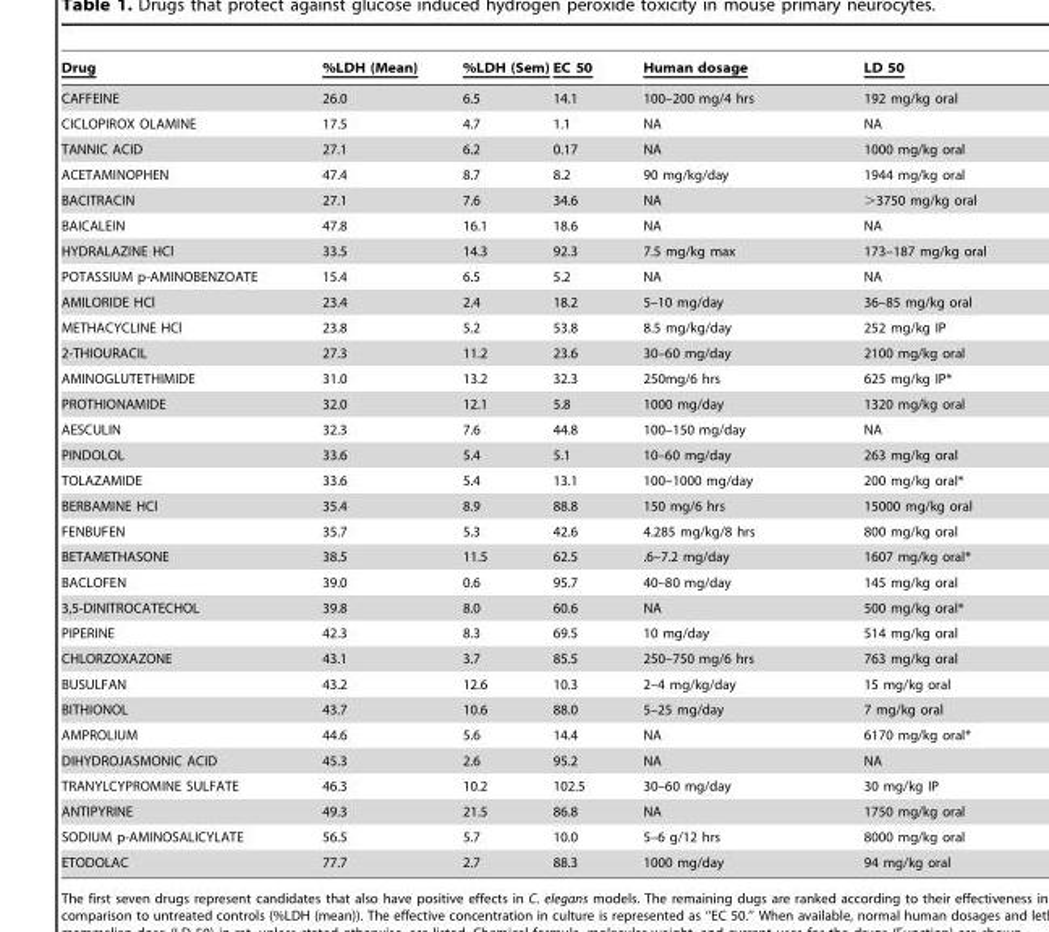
<table><thead><tr><td>Drug</td><td>%LDH (Mean)</td><td>%LDH (Sem)</td><td>EC 50</td><td>Human dosage</td><td>LD 50</td></tr></thead><tbody><tr><td>CAFFEINE</td><td>26.0</td><td>6.5</td><td>14.1</td><td>100–200 mg/4 hrs</td><td>192 mg/kg oral</td></tr><tr><td>CICLOPIROX OLAMINE</td><td>17.5</td><td>4.7</td><td>1.1</td><td>NA</td><td>NA</td></tr><tr><td>TANNIC ACID</td><td>27.1</td><td>6.2</td><td>0.17</td><td>NA</td><td>1000 mg/kg oral</td></tr><tr><td>ACETAMINOPHEN</td><td>47.4</td><td>8.7</td><td>8.2</td><td>90 mg/kg/day</td><td>1944 mg/kg oral</td></tr><tr><td>BACITRACIN</td><td>27.1</td><td>7.6</td><td>34.6</td><td>NA</td><td>&gt;3750 mg/kg oral</td></tr><tr><td>BAICALEIN</td><td>47.8</td><td>16.1</td><td>18.6</td><td>NA</td><td>NA</td></tr><tr><td>HYDRALAZINE HCl</td><td>33.5</td><td>14.3</td><td>92.3</td><td>7.5 mg/kg max</td><td>173–187 mg/kg oral</td></tr><tr><td>POTASSIUM p-AMINOBENZOATE</td><td>15.4</td><td>6.5</td><td>5.2</td><td>NA</td><td>NA</td></tr><tr><td>AMILORIDE HCl</td><td>23.4</td><td>2.4</td><td>18.2</td><td>5–10 mg/day</td><td>36–85 mg/kg oral</td></tr><tr><td>METHACYCLINE HCl</td><td>23.8</td><td>5.2</td><td>53.8</td><td>8.5 mg/kg/day</td><td>252 mg/kg IP</td></tr><tr><td>2-THIOURACIL</td><td>27.3</td><td>11.2</td><td>23.6</td><td>30–60 mg/day</td><td>2100 mg/kg oral</td></tr><tr><td>AMINOGLUTETHIMIDE</td><td>31.0</td><td>13.2</td><td>32.3</td><td>250mg/6 hrs</td><td>625 mg/kg IP*</td></tr><tr><td>PROTHIONAMIDE</td><td>32.0</td><td>12.1</td><td>5.8</td><td>1000 mg/day</td><td>1320 mg/kg oral</td></tr><tr><td>AESCULIN</td><td>32.3</td><td>7.6</td><td>44.8</td><td>100–150 mg/day</td><td>NA</td></tr><tr><td>PINDOLOL</td><td>33.6</td><td>5.4</td><td>5.1</td><td>10–60 mg/day</td><td>263 mg/kg oral</td></tr><tr><td>TOLAZAMIDE</td><td>33.6</td><td>5.4</td><td>13.1</td><td>100–1000 mg/day</td><td>200 mg/kg oral*</td></tr><tr><td>BERBAMINE HCl</td><td>35.4</td><td>8.9</td><td>88.8</td><td>150 mg/6 hrs</td><td>15000 mg/kg oral</td></tr><tr><td>FENBUFEN</td><td>35.7</td><td>5.3</td><td>42.6</td><td>4.285 mg/kg/8 hrs</td><td>800 mg/kg oral</td></tr><tr><td>BETAMETHASONE</td><td>38.5</td><td>11.5</td><td>62.5</td><td>.6–7.2 mg/day</td><td>1607 mg/kg oral*</td></tr><tr><td>BACLOFEN</td><td>39.0</td><td>0.6</td><td>95.7</td><td>40–80 mg/day</td><td>145 mg/kg oral</td></tr><tr><td>3,5-DINITROCATECHOL</td><td>39.8</td><td>8.0</td><td>60.6</td><td>NA</td><td>500 mg/kg oral*</td></tr><tr><td>PIPERINE</td><td>42.3</td><td>8.3</td><td>69.5</td><td>10 mg/day</td><td>514 mg/kg oral</td></tr><tr><td>CHLORZOXAZONE</td><td>43.1</td><td>3.7</td><td>85.5</td><td>250–750 mg/6 hrs</td><td>763 mg/kg oral</td></tr><tr><td>BUSULFAN</td><td>43.2</td><td>12.6</td><td>10.3</td><td>2–4 mg/kg/day</td><td>15 mg/kg oral</td></tr><tr><td>BITHIONOL</td><td>43.7</td><td>10.6</td><td>88.0</td><td>5–25 mg/day</td><td>7 mg/kg oral</td></tr><tr><td>AMPROLIUM</td><td>44.6</td><td>5.6</td><td>14.4</td><td>NA</td><td>6170 mg/kg oral*</td></tr><tr><td>DIHYDROJASMONIC ACID</td><td>45.3</td><td>2.6</td><td>95.2</td><td>NA</td><td>NA</td></tr><tr><td>TRANYLCYPROMINE SULFATE</td><td>46.3</td><td>10.2</td><td>102.5</td><td>30–60 mg/day</td><td>30 mg/kg IP</td></tr><tr><td>ANTIPYRINE</td><td>49.3</td><td>21.5</td><td>86.8</td><td>NA</td><td>1750 mg/kg oral</td></tr><tr><td>SODIUM p-AMINOSALICYLATE</td><td>56.5</td><td>5.7</td><td>10.0</td><td>5–6 g/12 hrs</td><td>8000 mg/kg oral</td></tr><tr><td>ETODOLAC</td><td>77.7</td><td>2.7</td><td>88.3</td><td>1000 mg/day</td><td>94 mg/kg oral</td></tr></tbody></table>